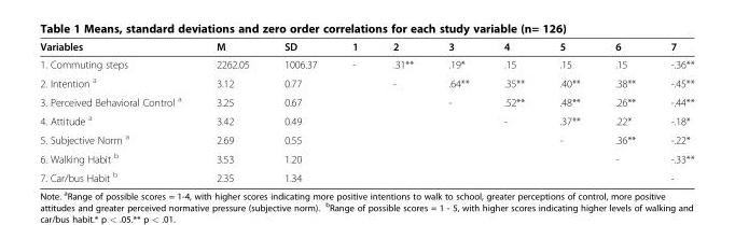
<table><thead><tr><td>Variables</td><td>M</td><td>SD</td><td>1</td><td>2</td><td>3</td><td>4</td><td>5</td><td>6</td><td>7</td></tr></thead><tbody><tr><td>1. Commuting steps</td><td>2262.05</td><td>1006.37</td><td>-</td><td>.31**</td><td>.19*</td><td>.15</td><td>.15</td><td>.15</td><td>-.36**</td></tr><tr><td>2. Intention <sup>a</sup></td><td>3.12</td><td>0.77</td><td></td><td>-</td><td>.64**</td><td>.35**</td><td>.40**</td><td>.38**</td><td>-.45**</td></tr><tr><td>3. Perceived Behavioral Control <sup>a</sup></td><td>3.25</td><td>0.67</td><td></td><td></td><td>-</td><td>.52**</td><td>.48**</td><td>.26**</td><td>-.44**</td></tr><tr><td>4. Attitude <sup>a</sup></td><td>3.42</td><td>0.49</td><td></td><td></td><td></td><td>-</td><td>.37**</td><td>.22*</td><td>-.18*</td></tr><tr><td>5. Subjective Norm <sup>a</sup></td><td>2.69</td><td>0.55</td><td></td><td></td><td></td><td></td><td>-</td><td>.36**</td><td>-.22*</td></tr><tr><td>6. Walking Habit <sup>b</sup></td><td>3.53</td><td>1.20</td><td></td><td></td><td></td><td></td><td></td><td>-</td><td>-.33**</td></tr><tr><td>7. Car/bus Habit <sup>b</sup></td><td>2.35</td><td>1.34</td><td></td><td></td><td></td><td></td><td></td><td></td><td>-</td></tr></tbody></table>